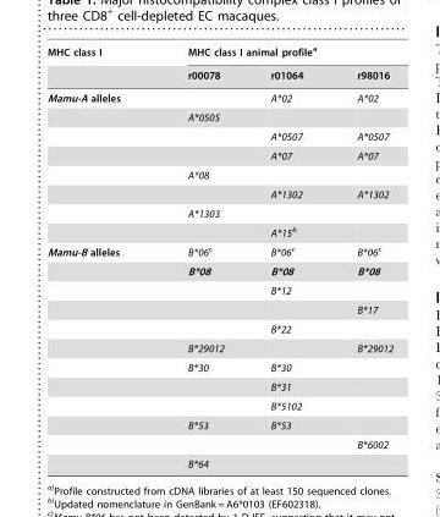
<table><thead><tr><td rowspan="2">MHC class I</td><td colspan="3">MHC class I animal profile<sup>a</sup></td></tr><tr><td>r00078</td><td>r01064</td><td>r98016</td></tr></thead><tbody><tr><td rowspan="8">Mamu-A alleles</td><td></td><td>A*02</td><td>A*02</td></tr><tr><td>A*0505</td><td></td><td></td></tr><tr><td></td><td>A*0507</td><td>A*0507</td></tr><tr><td></td><td>A*07</td><td>A*07</td></tr><tr><td>A*08</td><td></td><td></td></tr><tr><td></td><td>A*1302</td><td>A*1302</td></tr><tr><td>A*1303</td><td></td><td></td></tr><tr><td></td><td>A*15b</td><td></td></tr><tr><td rowspan="12">Mamu-B alleles</td><td>B*06c</td><td>B*06c</td><td>B*06c</td></tr><tr><td>B*08</td><td>B*08</td><td>B*08</td></tr><tr><td></td><td>B*12</td><td></td></tr><tr><td></td><td></td><td>B*17</td></tr><tr><td></td><td>B*22</td><td></td></tr><tr><td>B*29012</td><td></td><td>B*29012</td></tr><tr><td>B*30</td><td>B*30</td><td></td></tr><tr><td></td><td>B*31</td><td></td></tr><tr><td></td><td>B*5102</td><td></td></tr><tr><td>B*53</td><td>B*53</td><td></td></tr><tr><td></td><td></td><td>B*6002</td></tr><tr><td>B*64</td><td></td><td></td></tr></tbody></table>